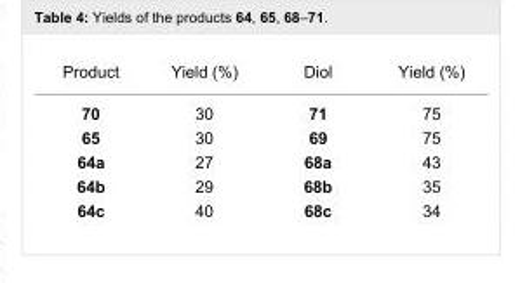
<table><tbody><tr><td>Product</td><td>Yield (%)</td><td>Diol</td><td>Yield (%)</td></tr><tr><td>70</td><td>30</td><td>71</td><td>75</td></tr><tr><td>65</td><td>30</td><td>69</td><td>75</td></tr><tr><td>64a</td><td>27</td><td>68a</td><td>43</td></tr><tr><td>64b</td><td>29</td><td>68b</td><td>35</td></tr><tr><td>64c</td><td>40</td><td>68c</td><td>34</td></tr></tbody></table>